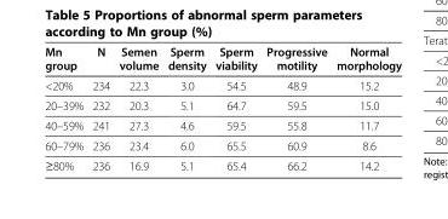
<table><thead><tr><td>Mn group</td><td>N</td><td>Semen volume</td><td>Sperm density</td><td>Sperm viability</td><td>Progressive motility</td><td>Normal morphology</td></tr></thead><tbody><tr><td>&lt;20%</td><td>234</td><td>22.3</td><td>3.0</td><td>54.5</td><td>48.9</td><td>15.2</td></tr><tr><td>20–39%</td><td>232</td><td>20.3</td><td>5.1</td><td>64.7</td><td>59.5</td><td>15.0</td></tr><tr><td>40–59%</td><td>241</td><td>27.3</td><td>4.6</td><td>59.5</td><td>55.8</td><td>11.7</td></tr><tr><td>60–79%</td><td>236</td><td>23.4</td><td>6.0</td><td>65.5</td><td>60.9</td><td>8.6</td></tr><tr><td>≥80%</td><td>236</td><td>16.9</td><td>5.1</td><td>65.4</td><td>66.2</td><td>14.2</td></tr></tbody></table>